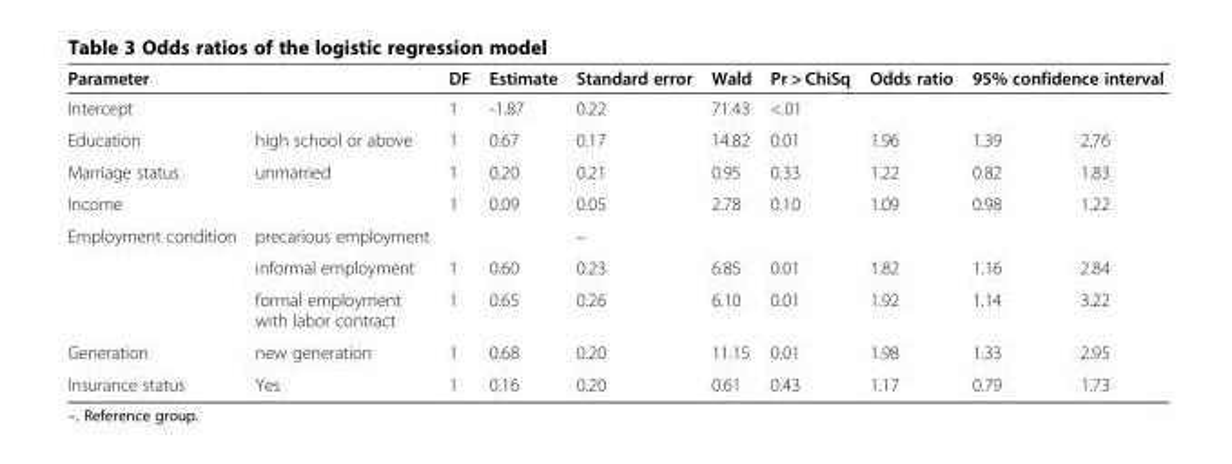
<table><thead><tr><td rowspan="2">Parameter Intercept</td><td rowspan="2"></td><td rowspan="2">DF 1</td><td rowspan="2">Estimate -1.87</td><td rowspan="2">Standard error 0.22</td><td rowspan="2">Wald 71.43</td><td rowspan="2">Pr &gt; ChiSq &lt;.01</td><td rowspan="2">Odds ratio</td><td colspan="2">95% confidence interval</td></tr><tr><td></td><td></td></tr></thead><tbody><tr><td>Education</td><td>high school or above</td><td>1</td><td>0.67</td><td>0.17</td><td>14.82</td><td>0.01</td><td>1.96</td><td>1.39</td><td>2.76</td></tr><tr><td>Marriage status</td><td>unmarried</td><td>1</td><td>0.20</td><td>0.21</td><td>0.95</td><td>0.33</td><td>1.22</td><td>0.82</td><td>1.83</td></tr><tr><td>Income</td><td></td><td>1</td><td>0.09</td><td>0.05</td><td>2.78</td><td>0.10</td><td>1.09</td><td>0.98</td><td>1.22</td></tr><tr><td rowspan="3">Employment condition</td><td>precarious employment</td><td></td><td></td><td>–</td><td></td><td></td><td></td><td></td><td></td></tr><tr><td>informal employment</td><td>1</td><td>0.60</td><td>0.23</td><td>6.85</td><td>0.01</td><td>1.82</td><td>1.16</td><td>2.84</td></tr><tr><td>formal employment with labor contract</td><td>1</td><td>0.65</td><td>0.26</td><td>6.10</td><td>0.01</td><td>1.92</td><td>1.14</td><td>3.22</td></tr><tr><td>Generation</td><td>new generation</td><td>1</td><td>0.68</td><td>0.20</td><td>11.15</td><td>0.01</td><td>1.98</td><td>1.33</td><td>2.95</td></tr><tr><td>Insurance status</td><td>Yes</td><td>1</td><td>0.16</td><td>0.20</td><td>0.61</td><td>0.43</td><td>1.17</td><td>0.79</td><td>1.73</td></tr></tbody></table>